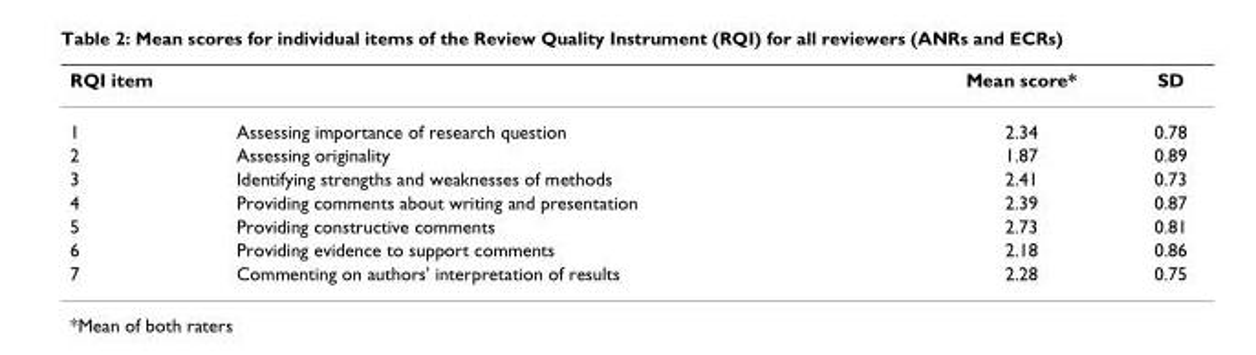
<table><thead><tr><td>RQI item</td><td></td><td>Mean score*</td><td>SD</td></tr></thead><tbody><tr><td>1</td><td>Assessing importance of research question</td><td>2.34</td><td>0.78</td></tr><tr><td>2</td><td>Assessing originality</td><td>1.87</td><td>0.89</td></tr><tr><td>3</td><td>Identifying strengths and weaknesses of methods</td><td>2.41</td><td>0.73</td></tr><tr><td>4</td><td>Providing comments about writing and presentation</td><td>2.39</td><td>0.87</td></tr><tr><td>5</td><td>Providing constructive comments</td><td>2.73</td><td>0.81</td></tr><tr><td>6</td><td>Providing evidence to support comments</td><td>2.18</td><td>0.86</td></tr><tr><td>7</td><td>Commenting on authors&#x27; interpretation of results</td><td>2.28</td><td>0.75</td></tr></tbody></table>